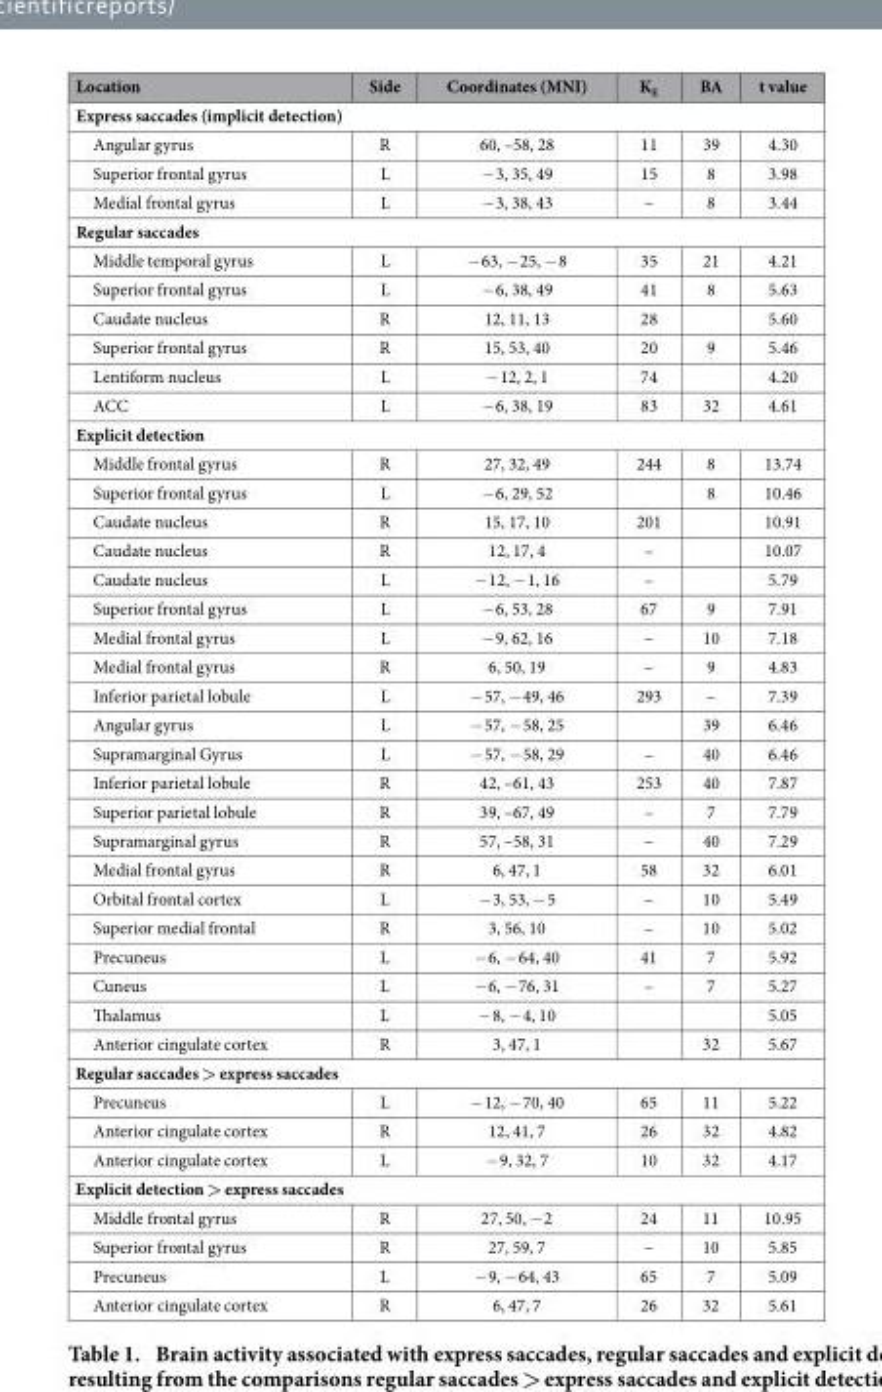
<table><thead><tr><td>Location</td><td>Side</td><td>Coordinates (MNI)</td><td>K<sub>E</sub></td><td>BA</td><td>t value</td></tr></thead><tbody><tr><td colspan="6">Express saccades (implicit detection)</td></tr><tr><td>Angular gyrus</td><td>R</td><td>60, –58, 28</td><td>11</td><td>39</td><td>4.30</td></tr><tr><td>Superior frontal gyrus</td><td>L</td><td>− 3, 35, 49</td><td>15</td><td>8</td><td>3.98</td></tr><tr><td>Medial frontal gyrus</td><td>L</td><td>− 3, 38, 43</td><td>–</td><td>8</td><td>3.44</td></tr><tr><td colspan="6">Regular saccades</td></tr><tr><td>Middle temporal gyrus</td><td>L</td><td>− 63, − 25, − 8</td><td>35</td><td>21</td><td>4.21</td></tr><tr><td>Superior frontal gyrus</td><td>L</td><td>− 6, 38, 49</td><td>41</td><td>8</td><td>5.63</td></tr><tr><td>Caudate nucleus</td><td>R</td><td>12, 11, 13</td><td>28</td><td></td><td>5.60</td></tr><tr><td>Superior frontal gyrus</td><td>R</td><td>15, 53, 40</td><td>20</td><td>9</td><td>5.46</td></tr><tr><td>Lentiform nucleus</td><td>L</td><td>− 12, 2, 1</td><td>74</td><td></td><td>4.20</td></tr><tr><td>ACC</td><td>L</td><td>− 6, 38, 19</td><td>83</td><td>32</td><td>4.61</td></tr><tr><td colspan="6">Explicit detection</td></tr><tr><td>Middle frontal gyrus</td><td>R</td><td>27, 32, 49</td><td>244</td><td>8</td><td>13.74</td></tr><tr><td>Superior frontal gyrus</td><td>L</td><td>− 6, 29, 52</td><td></td><td>8</td><td>10.46</td></tr><tr><td>Caudate nucleus</td><td>R</td><td>15, 17, 10</td><td>201</td><td></td><td>10.91</td></tr><tr><td>Caudate nucleus</td><td>R</td><td>12, 17, 4</td><td>–</td><td></td><td>10.07</td></tr><tr><td>Caudate nucleus</td><td>L</td><td>− 12, − 1, 16</td><td>–</td><td></td><td>5.79</td></tr><tr><td>Superior frontal gyrus</td><td>L</td><td>− 6, 53, 28</td><td>67</td><td>9</td><td>7.91</td></tr><tr><td>Medial frontal gyrus</td><td>L</td><td>− 9, 62, 16</td><td>–</td><td>10</td><td>7.18</td></tr><tr><td>Medial frontal gyrus</td><td>R</td><td>6, 50, 19</td><td>–</td><td>9</td><td>4.83</td></tr><tr><td>Inferior parietal lobule</td><td>L</td><td>− 57, − 49, 46</td><td>293</td><td>–</td><td>7.39</td></tr><tr><td>Angular gyrus</td><td>L</td><td>− 57, − 58, 25</td><td></td><td>39</td><td>6.46</td></tr><tr><td>Supramarginal Gyrus</td><td>L</td><td>− 57, − 58, 29</td><td>–</td><td>40</td><td>6.46</td></tr><tr><td>Inferior parietal lobule</td><td>R</td><td>42, –61, 43</td><td>253</td><td>40</td><td>7.87</td></tr><tr><td>Superior parietal lobule</td><td>R</td><td>39, –67, 49</td><td>–</td><td>7</td><td>7.79</td></tr><tr><td>Supramarginal gyrus</td><td>R</td><td>57, –58, 31</td><td>–</td><td>40</td><td>7.29</td></tr><tr><td>Medial frontal gyrus</td><td>R</td><td>6, 47, 1</td><td>58</td><td>32</td><td>6.01</td></tr><tr><td>Orbital frontal cortex</td><td>L</td><td>− 3, 53, − 5</td><td>–</td><td>10</td><td>5.49</td></tr><tr><td>Superior medial frontal</td><td>R</td><td>3, 56, 10</td><td>–</td><td>10</td><td>5.02</td></tr><tr><td>Precuneus</td><td>L</td><td>− 6, − 64, 40</td><td>41</td><td>7</td><td>5.92</td></tr><tr><td>Cuneus</td><td>L</td><td>− 6, − 76, 31</td><td>–</td><td>7</td><td>5.27</td></tr><tr><td>Thalamus</td><td>L</td><td>− 8, − 4, 10</td><td></td><td></td><td>5.05</td></tr><tr><td>Anterior cingulate cortex</td><td>R</td><td>3, 47, 1</td><td></td><td>32</td><td>5.67</td></tr><tr><td colspan="6">Regular saccades &gt; express saccades</td></tr><tr><td>Precuneus</td><td>L</td><td>− 12, − 70, 40</td><td>65</td><td>11</td><td>5.22</td></tr><tr><td>Anterior cingulate cortex</td><td>R</td><td>12, 41, 7</td><td>26</td><td>32</td><td>4.82</td></tr><tr><td>Anterior cingulate cortex</td><td>L</td><td>− 9, 32, 7</td><td>10</td><td>32</td><td>4.17</td></tr><tr><td colspan="6">Explicit detection &gt; express saccades</td></tr><tr><td>Middle frontal gyrus</td><td>R</td><td>27, 50, − 2</td><td>24</td><td>11</td><td>10.95</td></tr><tr><td>Superior frontal gyrus</td><td>R</td><td>27, 59, 7</td><td>–</td><td>10</td><td>5.85</td></tr><tr><td>Precuneus</td><td>L</td><td>− 9, − 64, 43</td><td>65</td><td>7</td><td>5.09</td></tr><tr><td>Anterior cingulate cortex</td><td>R</td><td>6, 47, 7</td><td>26</td><td>32</td><td>5.61</td></tr></tbody></table>